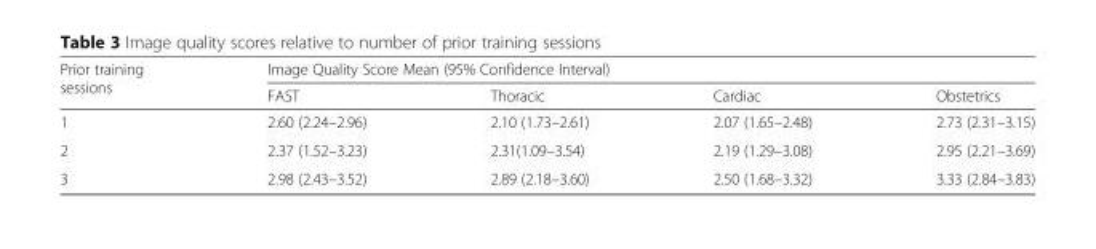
<table><thead><tr><td rowspan="2">Prior training sessions</td><td colspan="4">Image Quality Score Mean (95% Confidence Interval)</td></tr><tr><td>FAST</td><td>Thoracic</td><td>Cardiac</td><td>Obstetrics</td></tr></thead><tbody><tr><td>1</td><td>2.60 (2.24–2.96)</td><td>2.10 (1.73–2.61)</td><td>2.07 (1.65–2.48)</td><td>2.73 (2.31–3.15)</td></tr><tr><td>2</td><td>2.37 (1.52–3.23)</td><td>2.31(1.09–3.54)</td><td>2.19 (1.29–3.08)</td><td>2.95 (2.21–3.69)</td></tr><tr><td>3</td><td>2.98 (2.43–3.52)</td><td>2.89 (2.18–3.60)</td><td>2.50 (1.68–3.32)</td><td>3.33 (2.84–3.83)</td></tr></tbody></table>